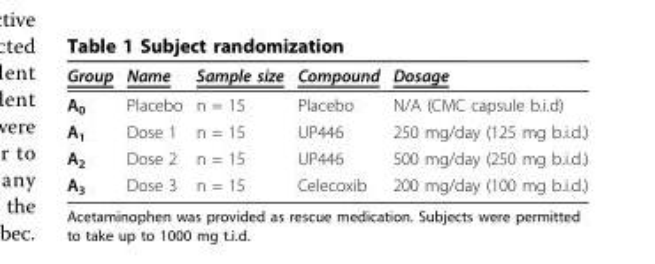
<table><thead><tr><td>Group</td><td>Name</td><td>Sample size</td><td>Compound</td><td>Dosage</td></tr></thead><tbody><tr><td>A<sub>0</sub></td><td>Placebo</td><td>n = 15</td><td>Placebo</td><td>N/A (CMC capsule b.i.d)</td></tr><tr><td>A<sub>1</sub></td><td>Dose 1</td><td>n = 15</td><td>UP446</td><td>250 mg/day (125 mg b.i.d.)</td></tr><tr><td>A<sub>2</sub></td><td>Dose 2</td><td>n = 15</td><td>UP446</td><td>500 mg/day (250 mg b.i.d.)</td></tr><tr><td>A<sub>3</sub></td><td>Dose 3</td><td>n = 15</td><td>Celecoxib</td><td>200 mg/day (100 mg b.i.d.)</td></tr></tbody></table>